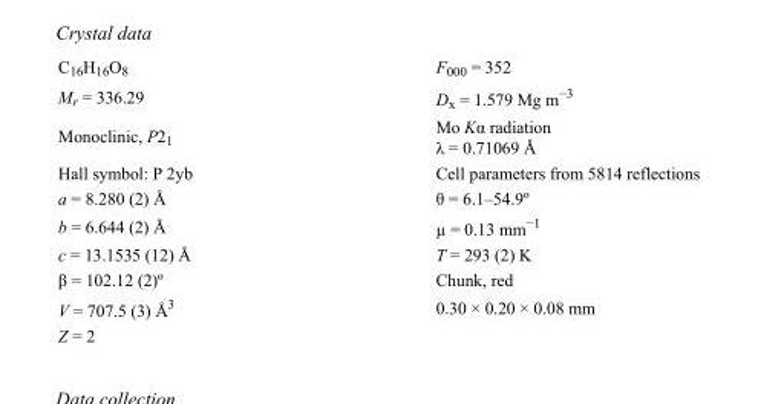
<table><tbody><tr><td>C<sub>16</sub>H<sub>16</sub>O<sub>8</sub></td><td>F000 = 352</td></tr><tr><td>M<sub>r</sub> = 336.29</td><td>D<sub>x</sub> = 1.579 Mg m<sup>−3</sup></td></tr><tr><td>Monoclinic, P2<sub>1</sub></td><td>Mo Kα radiation λ = 0.71069 Å</td></tr><tr><td>Hall symbol: P 2yb</td><td>Cell parameters from 5814 reflections</td></tr><tr><td>a = 8.280 (2) Å</td><td>θ = 6.1–54.9º</td></tr><tr><td>b = 6.644 (2) Å</td><td>µ = 0.13 mm<sup>−1</sup></td></tr><tr><td>c = 13.1535 (12) Å</td><td>T = 293 (2) K</td></tr><tr><td>β = 102.12 (2)º</td><td>Chunk, red</td></tr><tr><td>V = 707.5 (3) Å<sup>3</sup></td><td>0.30 × 0.20 × 0.08 mm</td></tr><tr><td>Z = 2</td><td></td></tr></tbody></table>